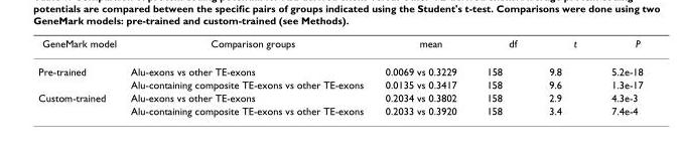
<table><thead><tr><td>GeneMark model</td><td>Comparison groups</td><td>mean</td><td>df</td><td>t</td><td>P</td></tr></thead><tbody><tr><td rowspan="2">Pre-trained</td><td>Alu-exons vs other TE-exons</td><td>0.0069 vs 0.3229</td><td>158</td><td>9.8</td><td>5.2e-18</td></tr><tr><td>Alu-containing composite TE-exons vs other TE-exons</td><td>0.0135 vs 0.3417</td><td>158</td><td>9.6</td><td>1.3e-17</td></tr><tr><td rowspan="2">Custom-trained</td><td>Alu-exons vs other TE-exons</td><td>0.2034 vs 0.3802</td><td>158</td><td>2.9</td><td>4.3e-3</td></tr><tr><td>Alu-containing composite TE-exons vs other TE-exons</td><td>0.2033 vs 0.3920</td><td>158</td><td>3.4</td><td>7.4e-4</td></tr></tbody></table>